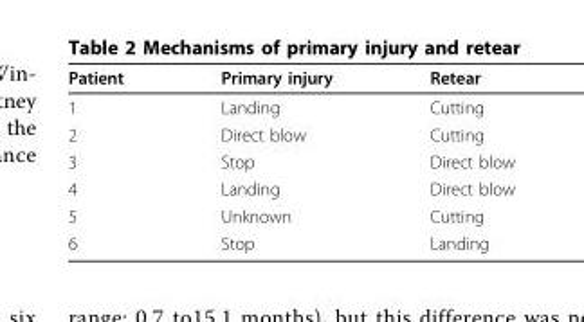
<table><thead><tr><td>Patient</td><td>Primary injury</td><td>Retear</td></tr></thead><tbody><tr><td>1</td><td>Landing</td><td>Cutting</td></tr><tr><td>2</td><td>Direct blow</td><td>Cutting</td></tr><tr><td>3</td><td>Stop</td><td>Direct blow</td></tr><tr><td>4</td><td>Landing</td><td>Direct blow</td></tr><tr><td>5</td><td>Unknown</td><td>Cutting</td></tr><tr><td>6</td><td>Stop</td><td>Landing</td></tr></tbody></table>